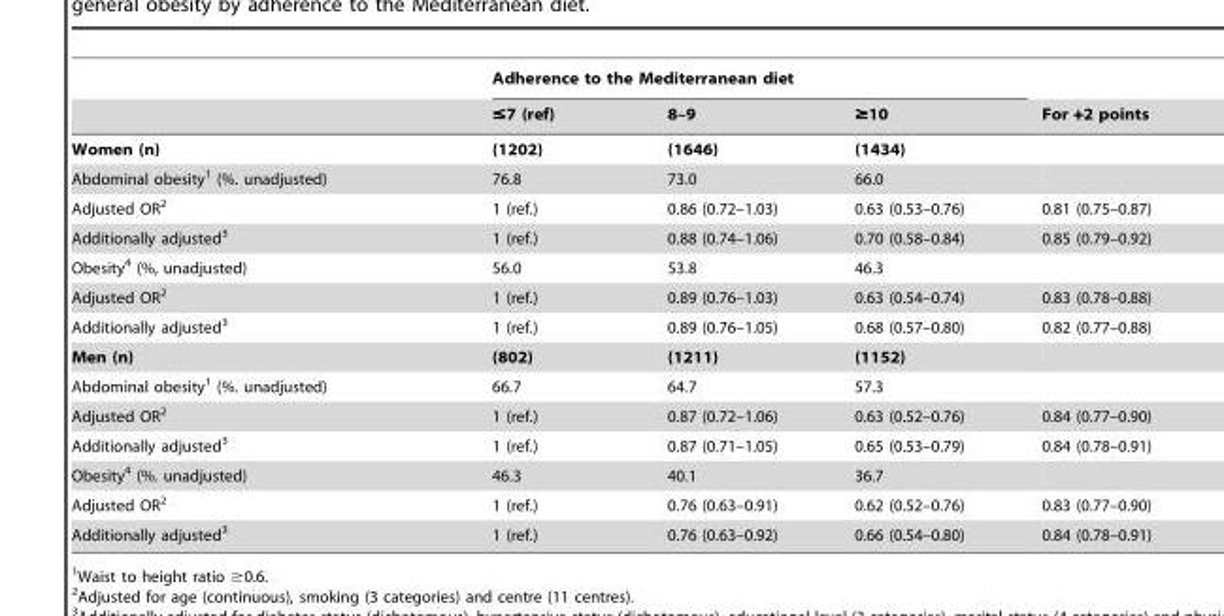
<table><thead><tr><td rowspan="2"></td><td colspan="3">Adherence to the Mediterranean diet</td><td rowspan="2">For +2 points</td></tr><tr><td>≤7 (ref)</td><td>8–9</td><td>≥10</td></tr></thead><tbody><tr><td>Women (n)</td><td>(1202)</td><td>(1646)</td><td>(1434)</td><td></td></tr><tr><td>Abdominal obesity<sup>1</sup> (%. unadjusted)</td><td>76.8</td><td>73.0</td><td>66.0</td><td></td></tr><tr><td>Adjusted OR<sup>2</sup></td><td>1 (ref.)</td><td>0.86 (0.72–1.03)</td><td>0.63 (0.53–0.76)</td><td>0.81 (0.75–0.87)</td></tr><tr><td>Additionally adjusted<sup>3</sup></td><td>1 (ref.)</td><td>0.88 (0.74–1.06)</td><td>0.70 (0.58–0.84)</td><td>0.85 (0.79–0.92)</td></tr><tr><td>Obesity<sup>4</sup> (%, unadjusted)</td><td>56.0</td><td>53.8</td><td>46.3</td><td></td></tr><tr><td>Adjusted OR<sup>2</sup></td><td>1 (ref.)</td><td>0.89 (0.76–1.03)</td><td>0.63 (0.54–0.74)</td><td>0.83 (0.78–0.88)</td></tr><tr><td>Additionally adjusted<sup>3</sup></td><td>1 (ref.)</td><td>0.89 (0.76–1.05)</td><td>0.68 (0.57–0.80)</td><td>0.82 (0.77–0.88)</td></tr><tr><td>Men (n)</td><td>(802)</td><td>(1211)</td><td>(1152)</td><td></td></tr><tr><td>Abdominal obesity<sup>1</sup> (%. unadjusted)</td><td>66.7</td><td>64.7</td><td>57.3</td><td></td></tr><tr><td>Adjusted OR<sup>2</sup></td><td>1 (ref.)</td><td>0.87 (0.72–1.06)</td><td>0.63 (0.52–0.76)</td><td>0.84 (0.77–0.90)</td></tr><tr><td>Additionally adjusted<sup>3</sup></td><td>1 (ref.)</td><td>0.87 (0.71–1.05)</td><td>0.65 (0.53–0.79)</td><td>0.84 (0.78–0.91)</td></tr><tr><td>Obesity<sup>4</sup> (%. unadjusted)</td><td>46.3</td><td>40.1</td><td>36.7</td><td></td></tr><tr><td>Adjusted OR<sup>2</sup></td><td>1 (ref.)</td><td>0.76 (0.63–0.91)</td><td>0.62 (0.52–0.76)</td><td>0.83 (0.77–0.90)</td></tr><tr><td>Additionally adjusted<sup>3</sup></td><td>1 (ref.)</td><td>0.76 (0.63–0.92)</td><td>0.66 (0.54–0.80)</td><td>0.84 (0.78–0.91)</td></tr></tbody></table>